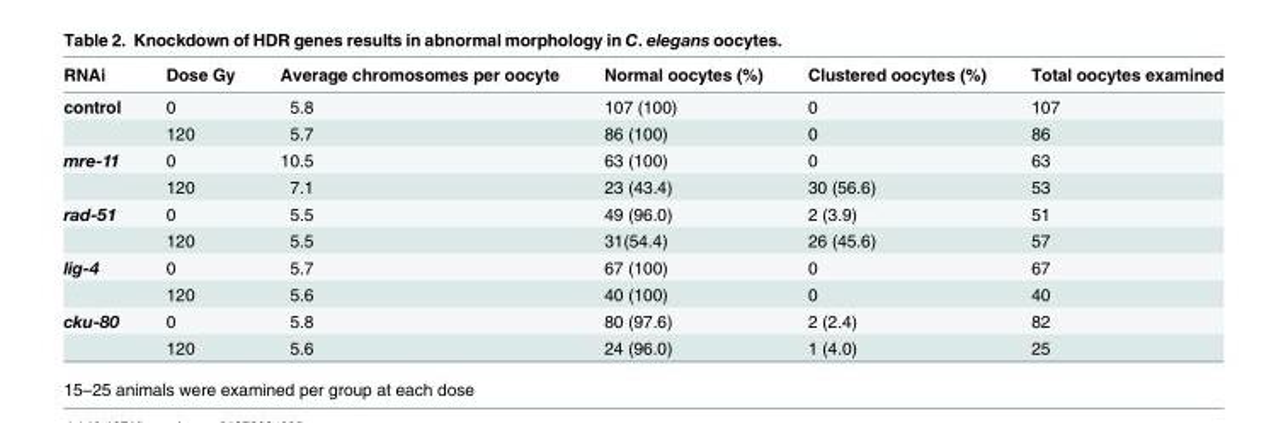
<table><thead><tr><td>RNAi</td><td>Dose Gy</td><td>Average chromosomes per oocyte</td><td>Normal oocytes (%)</td><td>Clustered oocytes (%)</td><td>Total oocytes examined</td></tr></thead><tbody><tr><td rowspan="2">control</td><td>0</td><td>5.8</td><td>107 (100)</td><td>0</td><td>107</td></tr><tr><td>120</td><td>5.7</td><td>86 (100)</td><td>0</td><td>86</td></tr><tr><td rowspan="2">mre-11</td><td>0</td><td>10.5</td><td>63 (100)</td><td>0</td><td>63</td></tr><tr><td>120</td><td>7.1</td><td>23 (43.4)</td><td>30 (56.6)</td><td>53</td></tr><tr><td rowspan="2">rad-51</td><td>0</td><td>5.5</td><td>49 (96.0)</td><td>2 (3.9)</td><td>51</td></tr><tr><td>120</td><td>5.5</td><td>31(54.4)</td><td>26 (45.6)</td><td>57</td></tr><tr><td rowspan="2">lig-4</td><td>0</td><td>5.7</td><td>67 (100)</td><td>0</td><td>67</td></tr><tr><td>120</td><td>5.6</td><td>40 (100)</td><td>0</td><td>40</td></tr><tr><td rowspan="2">cku-80</td><td>0</td><td>5.8</td><td>80 (97.6)</td><td>2 (2.4)</td><td>82</td></tr><tr><td>120</td><td>5.6</td><td>24 (96.0)</td><td>1 (4.0)</td><td>25</td></tr></tbody></table>